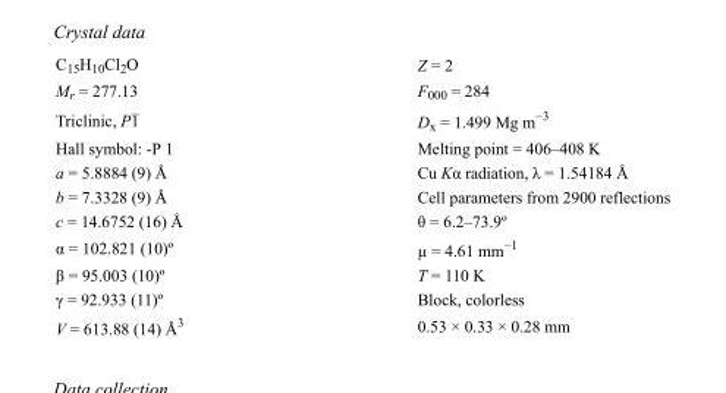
<table><tbody><tr><td>C<sub>15</sub>H<sub>10</sub>Cl<sub>2</sub>O</td><td>Z = 2</td></tr><tr><td>M<sub>r</sub> = 277.13</td><td>F000 = 284</td></tr><tr><td>Triclinic, P1</td><td>D<sub>x</sub> = 1.499 Mg m<sup>−3</sup></td></tr><tr><td>Hall symbol: -P 1</td><td>Melting point = 406–408 K</td></tr><tr><td>a = 5.8884 (9) Å</td><td>Cu Kα radiation, λ = 1.54184 Å</td></tr><tr><td>b = 7.3328 (9) Å</td><td>Cell parameters from 2900 reflections</td></tr><tr><td>c = 14.6752 (16) Å</td><td>θ = 6.2–73.9º</td></tr><tr><td>α = 102.821 (10)º</td><td>µ = 4.61 mm<sup>−1</sup></td></tr><tr><td>β = 95.003 (10)º</td><td>T = 110 K</td></tr><tr><td>γ = 92.933 (11)º</td><td>Block, colorless</td></tr><tr><td>V = 613.88 (14) Å<sup>3</sup></td><td>0.53 × 0.33 × 0.28 mm</td></tr></tbody></table>